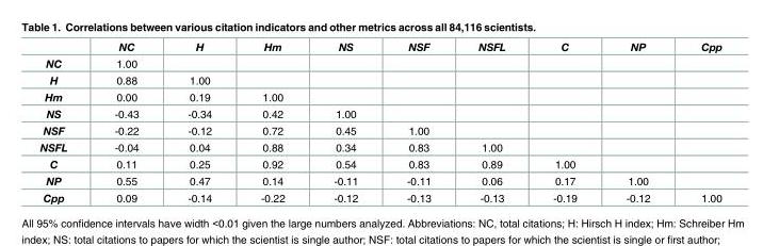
<table><thead><tr><td></td><td>NC</td><td>H</td><td>Hm</td><td>NS</td><td>NSF</td><td>NSFL</td><td>C</td><td>NP</td><td>Cpp</td></tr></thead><tbody><tr><td>NC</td><td>1.00</td><td></td><td></td><td></td><td></td><td></td><td></td><td></td><td></td></tr><tr><td>H</td><td>0.88</td><td>1.00</td><td></td><td></td><td></td><td></td><td></td><td></td><td></td></tr><tr><td>Hm</td><td>0.00</td><td>0.19</td><td>1.00</td><td></td><td></td><td></td><td></td><td></td><td></td></tr><tr><td>NS</td><td>-0.43</td><td>-0.34</td><td>0.42</td><td>1.00</td><td></td><td></td><td></td><td></td><td></td></tr><tr><td>NSF</td><td>-0.22</td><td>-0.12</td><td>0.72</td><td>0.45</td><td>1.00</td><td></td><td></td><td></td><td></td></tr><tr><td>NSFL</td><td>-0.04</td><td>0.04</td><td>0.88</td><td>0.34</td><td>0.83</td><td>1.00</td><td></td><td></td><td></td></tr><tr><td>C</td><td>0.11</td><td>0.25</td><td>0.92</td><td>0.54</td><td>0.83</td><td>0.89</td><td>1.00</td><td></td><td></td></tr><tr><td>NP</td><td>0.55</td><td>0.47</td><td>0.14</td><td>-0.11</td><td>-0.11</td><td>0.06</td><td>0.17</td><td>1.00</td><td></td></tr><tr><td>Cpp</td><td>0.09</td><td>-0.14</td><td>-0.22</td><td>-0.12</td><td>-0.13</td><td>-0.13</td><td>-0.19</td><td>-0.12</td><td>1.00</td></tr></tbody></table>